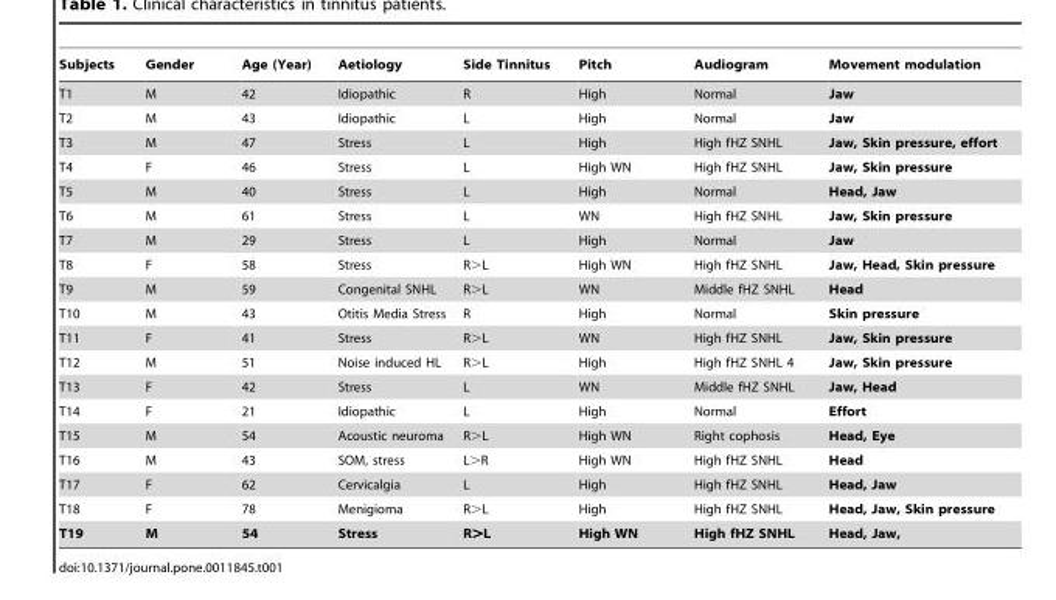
<table><thead><tr><td>Subjects</td><td>Gender</td><td>Age (Year)</td><td>Aetiology</td><td>Side Tinnitus</td><td>Pitch</td><td>Audiogram</td><td>Movement modulation</td></tr></thead><tbody><tr><td>T1</td><td>M</td><td>42</td><td>Idiopathic</td><td>R</td><td>High</td><td>Normal</td><td>Jaw</td></tr><tr><td>T2</td><td>M</td><td>43</td><td>Idiopathic</td><td>L</td><td>High</td><td>Normal</td><td>Jaw</td></tr><tr><td>T3</td><td>M</td><td>47</td><td>Stress</td><td>L</td><td>High</td><td>High fHZ SNHL</td><td>Jaw, Skin pressure, effort</td></tr><tr><td>T4</td><td>F</td><td>46</td><td>Stress</td><td>L</td><td>High WN</td><td>High fHZ SNHL</td><td>Jaw, Skin pressure</td></tr><tr><td>T5</td><td>M</td><td>40</td><td>Stress</td><td>L</td><td>High</td><td>Normal</td><td>Head, Jaw</td></tr><tr><td>T6</td><td>M</td><td>61</td><td>Stress</td><td>L</td><td>WN</td><td>High fHZ SNHL</td><td>Jaw, Skin pressure</td></tr><tr><td>T7</td><td>M</td><td>29</td><td>Stress</td><td>L</td><td>High</td><td>Normal</td><td>Jaw</td></tr><tr><td>T8</td><td>F</td><td>58</td><td>Stress</td><td>R&gt;L</td><td>High WN</td><td>High fHZ SNHL</td><td>Jaw, Head, Skin pressure</td></tr><tr><td>T9</td><td>M</td><td>59</td><td>Congenital SNHL</td><td>R&gt;L</td><td>WN</td><td>Middle fHZ SNHL</td><td>Head</td></tr><tr><td>T10</td><td>M</td><td>43</td><td>Otitis Media Stress</td><td>R</td><td>High</td><td>Normal</td><td>Skin pressure</td></tr><tr><td>T11</td><td>F</td><td>41</td><td>Stress</td><td>R&gt;L</td><td>WN</td><td>High fHZ SNHL</td><td>Jaw, Skin pressure</td></tr><tr><td>T12</td><td>M</td><td>51</td><td>Noise induced HL</td><td>R&gt;L</td><td>High</td><td>High fHZ SNHL 4</td><td>Jaw, Skin pressure</td></tr><tr><td>T13</td><td>F</td><td>42</td><td>Stress</td><td>L</td><td>WN</td><td>Middle fHZ SNHL</td><td>Jaw, Head</td></tr><tr><td>T14</td><td>F</td><td>21</td><td>Idiopathic</td><td>L</td><td>High</td><td>Normal</td><td>Effort</td></tr><tr><td>T15</td><td>M</td><td>54</td><td>Acoustic neuroma</td><td>R&gt;L</td><td>High WN</td><td>Right cophosis</td><td>Head, Eye</td></tr><tr><td>T16</td><td>M</td><td>43</td><td>SOM, stress</td><td>L&gt;R</td><td>High WN</td><td>High fHZ SNHL</td><td>Head</td></tr><tr><td>T17</td><td>F</td><td>62</td><td>Cervicalgia</td><td>L</td><td>High</td><td>High fHZ SNHL</td><td>Head, Jaw</td></tr><tr><td>T18</td><td>F</td><td>78</td><td>Menigioma</td><td>R&gt;L</td><td>High</td><td>High fHZ SNHL</td><td>Head, Jaw, Skin pressure</td></tr><tr><td>T19</td><td>M</td><td>54</td><td>Stress</td><td>R&gt;L</td><td>High WN</td><td>High fHZ SNHL</td><td>Head, Jaw,</td></tr></tbody></table>